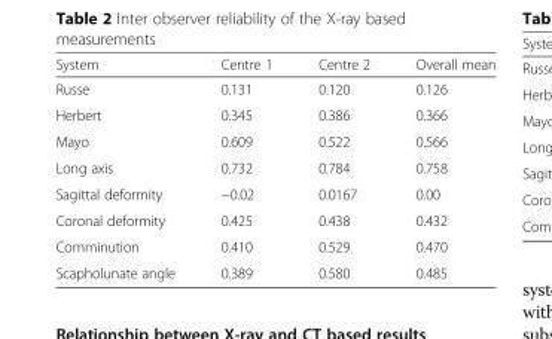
<table><thead><tr><td>System</td><td>Centre 1</td><td>Centre 2</td><td>Overall mean</td></tr></thead><tbody><tr><td>Russe</td><td>0.131</td><td>0.120</td><td>0.126</td></tr><tr><td>Herbert</td><td>0.345</td><td>0.386</td><td>0.366</td></tr><tr><td>Mayo</td><td>0.609</td><td>0.522</td><td>0.566</td></tr><tr><td>Long axis</td><td>0.732</td><td>0.784</td><td>0.758</td></tr><tr><td>Sagittal deformity</td><td>−0.02</td><td>0.0167</td><td>0.00</td></tr><tr><td>Coronal deformity</td><td>0.425</td><td>0.438</td><td>0.432</td></tr><tr><td>Comminution</td><td>0.410</td><td>0.529</td><td>0.470</td></tr><tr><td>Scapholunate angle</td><td>0.389</td><td>0.580</td><td>0.485</td></tr></tbody></table>